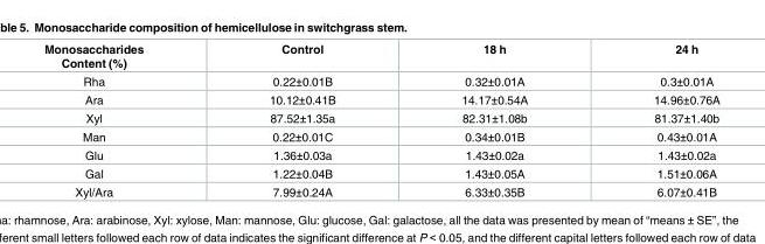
<table><thead><tr><td>Monosaccharides Content (%)</td><td>Control</td><td>18 h</td><td>24 h</td></tr></thead><tbody><tr><td>Rha</td><td>0.22±0.01B</td><td>0.32±0.01A</td><td>0.3±0.01A</td></tr><tr><td>Ara</td><td>10.12±0.41B</td><td>14.17±0.54A</td><td>14.96±0.76A</td></tr><tr><td>Xyl</td><td>87.52±1.35a</td><td>82.31±1.08b</td><td>81.37±1.40b</td></tr><tr><td>Man</td><td>0.22±0.01C</td><td>0.34±0.01B</td><td>0.43±0.01A</td></tr><tr><td>Glu</td><td>1.36±0.03a</td><td>1.43±0.02a</td><td>1.43±0.02a</td></tr><tr><td>Gal</td><td>1.22±0.04B</td><td>1.43±0.05A</td><td>1.51±0.06A</td></tr><tr><td>Xyl/Ara</td><td>7.99±0.24A</td><td>6.33±0.35B</td><td>6.07±0.41B</td></tr></tbody></table>